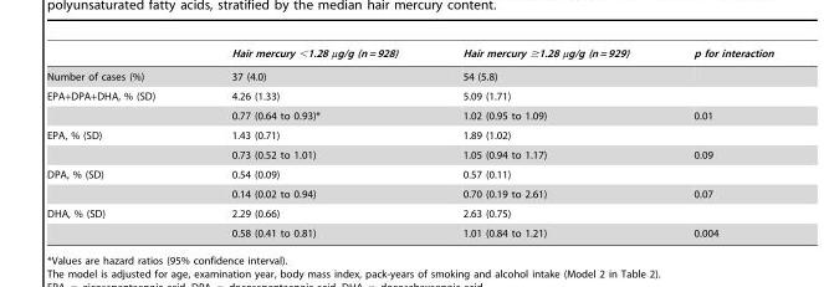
<table><thead><tr><td></td><td>Hair mercury &lt;1.28 µg/g (n = 928)</td><td>Hair mercury ≥1.28 µg/g (n = 929)</td><td>p for interaction</td></tr></thead><tbody><tr><td>Number of cases (%)</td><td>37 (4.0)</td><td>54 (5.8)</td><td></td></tr><tr><td rowspan="2">EPA+DPA+DHA, % (SD)</td><td>4.26 (1.33)</td><td>5.09 (1.71)</td><td></td></tr><tr><td>0.77 (0.64 to 0.93)*</td><td>1.02 (0.95 to 1.09)</td><td>0.01</td></tr><tr><td rowspan="2">EPA, % (SD)</td><td>1.43 (0.71)</td><td>1.89 (1.02)</td><td></td></tr><tr><td>0.73 (0.52 to 1.01)</td><td>1.05 (0.94 to 1.17)</td><td>0.09</td></tr><tr><td rowspan="2">DPA, % (SD)</td><td>0.54 (0.09)</td><td>0.57 (0.11)</td><td></td></tr><tr><td>0.14 (0.02 to 0.94)</td><td>0.70 (0.19 to 2.61)</td><td>0.07</td></tr><tr><td rowspan="2">DHA, % (SD)</td><td>2.29 (0.66)</td><td>2.63 (0.75)</td><td></td></tr><tr><td>0.58 (0.41 to 0.81)</td><td>1.01 (0.84 to 1.21)</td><td>0.004</td></tr></tbody></table>